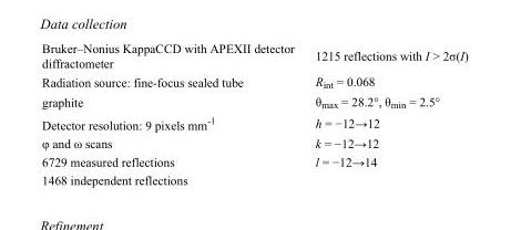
<table><tbody><tr><td>Bruker–Nonius KappaCCD with APEXII detector diffractometer</td><td>1215 reflections with I &gt; 2σ(I)</td></tr><tr><td>Radiation source: fine-focus sealed tube</td><td>R<sub>int</sub> = 0.068</td></tr><tr><td>graphite</td><td>θ<sub>max</sub> = 28.2°, θ<sub>min</sub> = 2.5°</td></tr><tr><td>Detector resolution: 9 pixels mm<sup>-1</sup></td><td>h = −12→12</td></tr><tr><td>φ and ω scans</td><td>k = −12→12</td></tr><tr><td>6729 measured reflections</td><td>l = −12→14</td></tr><tr><td>1468 independent reflections</td><td></td></tr></tbody></table>